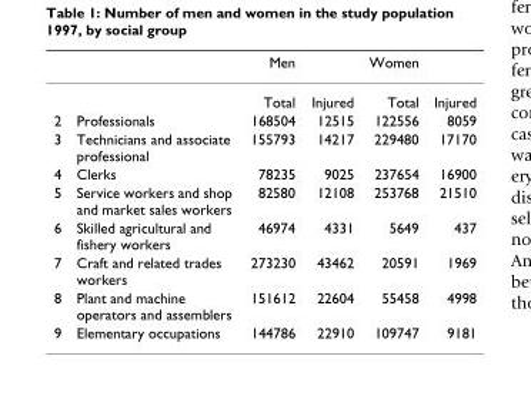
<table><thead><tr><td></td><td></td><td>Men</td><td></td><td>Women</td><td></td></tr></thead><tbody><tr><td></td><td></td><td>Total</td><td>Injured</td><td>Total</td><td>Injured</td></tr><tr><td>2</td><td>Professionals</td><td>168504</td><td>12515</td><td>122556</td><td>8059</td></tr><tr><td>3</td><td>Technicians and associate professional</td><td>155793</td><td>14217</td><td>229480</td><td>17170</td></tr><tr><td>4</td><td>Clerks</td><td>78235</td><td>9025</td><td>237654</td><td>16900</td></tr><tr><td>5</td><td>Service workers and shop and market sales workers</td><td>82580</td><td>12108</td><td>253768</td><td>21510</td></tr><tr><td>6</td><td>Skilled agricultural and fishery workers</td><td>46974</td><td>4331</td><td>5649</td><td>437</td></tr><tr><td>7</td><td>Craft and related trades workers</td><td>273230</td><td>43462</td><td>20591</td><td>1969</td></tr><tr><td>8</td><td>Plant and machine operators and assemblers</td><td>151612</td><td>22604</td><td>55458</td><td>4998</td></tr><tr><td>9</td><td>Elementary occupations</td><td>144786</td><td>22910</td><td>109747</td><td>9181</td></tr></tbody></table>